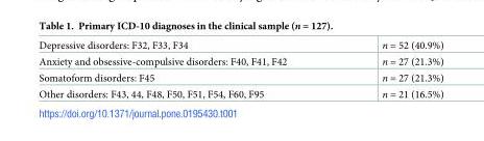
<table><tbody><tr><td>Depressive disorders: F32, F33, F34</td><td>n = 52 (40.9%)</td></tr><tr><td>Anxiety and obsessive-compulsive disorders: F40, F41, F42</td><td>n = 27 (21.3%)</td></tr><tr><td>Somatoform disorders: F45</td><td>n = 27 (21.3%)</td></tr><tr><td>Other disorders: F43, 44, F48, F50, F51, F54, F60, F95</td><td>n = 21 (16.5%)</td></tr></tbody></table>